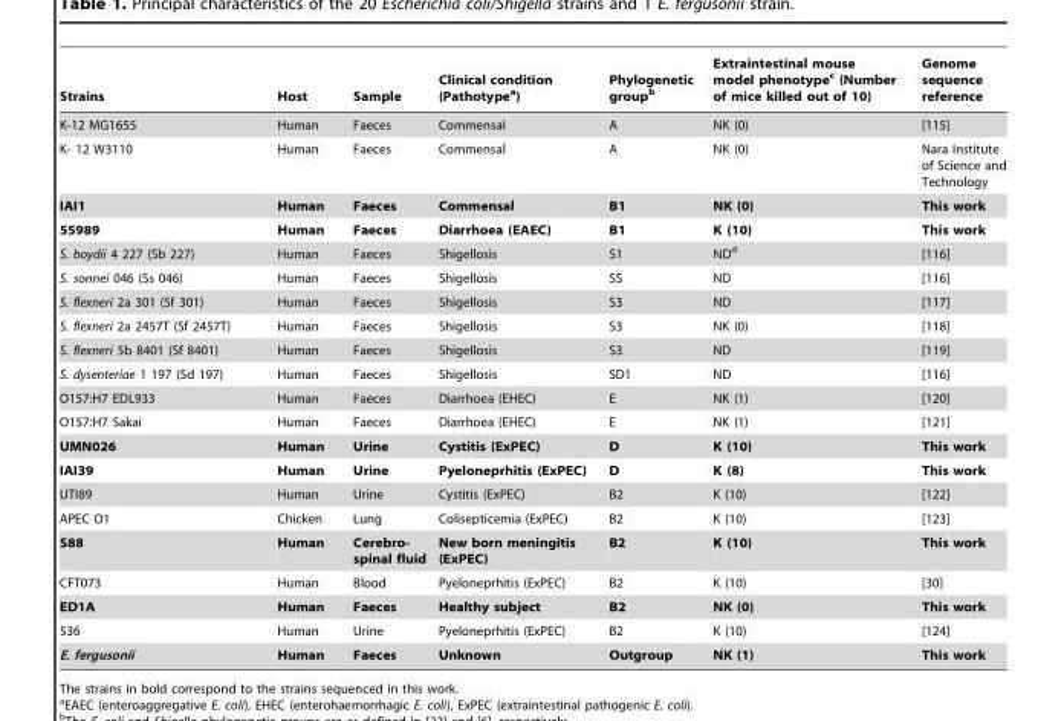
<table><thead><tr><td>Strains</td><td>Host</td><td>Sample</td><td>Clinical condition (Pathotype<sup>a</sup>)</td><td>Phylogenetic group<sup>b</sup></td><td>Extraintestinal mouse model phenotype<sup>c</sup> (Number of mice killed out of 10)</td><td>Genome sequence reference</td></tr></thead><tbody><tr><td>K-12 MG1655</td><td>Human</td><td>Faeces</td><td>Commensal</td><td>A</td><td>NK (0)</td><td>[115]</td></tr><tr><td>K- 12 W3110</td><td>Human</td><td>Faeces</td><td>Commensal</td><td>A</td><td>NK (0)</td><td>Nara Institute of Science and Technology</td></tr><tr><td>IAI1</td><td>Human</td><td>Faeces</td><td>Commensal</td><td>B1</td><td>NK (0)</td><td>This work</td></tr><tr><td>55989</td><td>Human</td><td>Faeces</td><td>Diarrhoea (EAEC)</td><td>B1</td><td>K (10)</td><td>This work</td></tr><tr><td>S. boydii 4 227 (Sb 227)</td><td>Human</td><td>Faeces</td><td>Shigellosis</td><td>S1</td><td>ND<sup>d</sup></td><td>[116]</td></tr><tr><td>S. sonnei 046 (Ss 046)</td><td>Human</td><td>Faeces</td><td>Shigellosis</td><td>SS</td><td>ND</td><td>[116]</td></tr><tr><td>S. flexneri 2a 301 (Sf 301)</td><td>Human</td><td>Faeces</td><td>Shigellosis</td><td>S3</td><td>ND</td><td>[117]</td></tr><tr><td>S. flexneri 2a 2457T (Sf 2457T)</td><td>Human</td><td>Faeces</td><td>Shigellosis</td><td>S3</td><td>NK (0)</td><td>[118]</td></tr><tr><td>S. flexneri 5b 8401 (Sf 8401)</td><td>Human</td><td>Faeces</td><td>Shigellosis</td><td>S3</td><td>ND</td><td>[119]</td></tr><tr><td>S. dysenteriae 1 197 (Sd 197)</td><td>Human</td><td>Faeces</td><td>Shigellosis</td><td>SD1</td><td>ND</td><td>[116]</td></tr><tr><td>O157:H7 EDL933</td><td>Human</td><td>Faeces</td><td>Diarrhoea (EHEC)</td><td>E</td><td>NK (1)</td><td>[120]</td></tr><tr><td>O157:H7 Sakai</td><td>Human</td><td>Faeces</td><td>Diarrhoea (EHEC)</td><td>E</td><td>NK (1)</td><td>[121]</td></tr><tr><td>UMN026</td><td>Human</td><td>Urine</td><td>Cystitis (ExPEC)</td><td>D</td><td>K (10)</td><td>This work</td></tr><tr><td>IAI39</td><td>Human</td><td>Urine</td><td>Pyeloneprhitis (ExPEC)</td><td>D</td><td>K (8)</td><td>This work</td></tr><tr><td>UTI89</td><td>Human</td><td>Urine</td><td>Cystitis (ExPEC)</td><td>B2</td><td>K (10)</td><td>[122]</td></tr><tr><td>APEC O1</td><td>Chicken</td><td>Lung</td><td>Colisepticemia (ExPEC)</td><td>B2</td><td>K (10)</td><td>[123]</td></tr><tr><td>S88</td><td>Human</td><td>Cerebro- spinal fluid</td><td>New born meningitis (ExPEC)</td><td>B2</td><td>K (10)</td><td>This work</td></tr><tr><td>CFT073</td><td>Human</td><td>Blood</td><td>Pyeloneprhitis (ExPEC)</td><td>B2</td><td>K (10)</td><td>[30]</td></tr><tr><td>ED1A</td><td>Human</td><td>Faeces</td><td>Healthy subject</td><td>B2</td><td>NK (0)</td><td>This work</td></tr><tr><td>536</td><td>Human</td><td>Urine</td><td>Pyeloneprhitis (ExPEC)</td><td>B2</td><td>K (10)</td><td>[124]</td></tr><tr><td>E. fergusonii</td><td>Human</td><td>Faeces</td><td>Unknown</td><td>Outgroup</td><td>NK (1)</td><td>This work</td></tr></tbody></table>